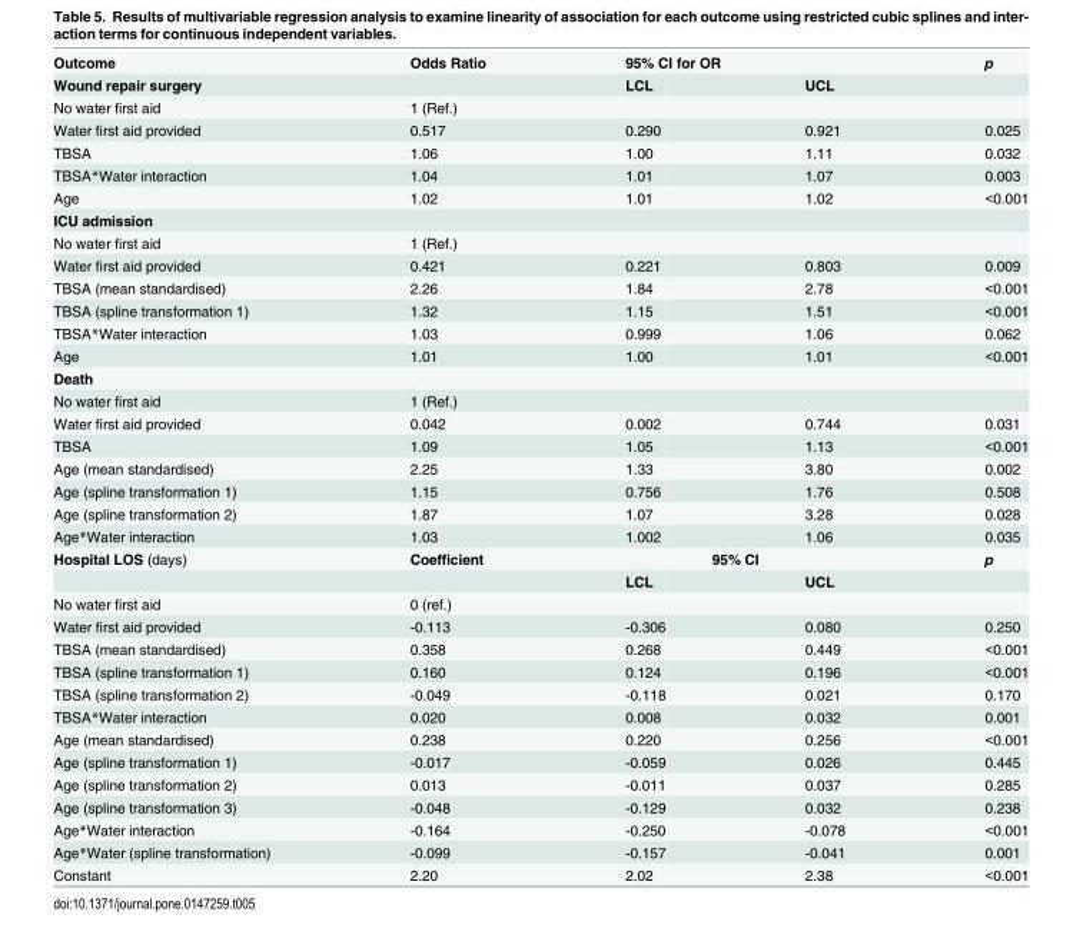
<table><tbody><tr><td>Outcome</td><td>Odds Ratio</td><td colspan="2">95% CI for OR</td><td>p</td></tr><tr><td>Wound repair surgery</td><td></td><td>LCL</td><td>UCL</td><td></td></tr><tr><td>No water first aid</td><td colspan="4">1 (Ref.)</td></tr><tr><td>Water first aid provided</td><td>0.517</td><td>0.290</td><td>0.921</td><td>0.025</td></tr><tr><td>TBSA</td><td>1.06</td><td>1.00</td><td>1.11</td><td>0.032</td></tr><tr><td>TBSA*Water interaction</td><td>1.04</td><td>1.01</td><td>1.07</td><td>0.003</td></tr><tr><td>Age</td><td>1.02</td><td>1.01</td><td>1.02</td><td>&lt;0.001</td></tr><tr><td colspan="5">ICU admission</td></tr><tr><td>No water first aid</td><td colspan="4">1 (Ref.)</td></tr><tr><td>Water first aid provided</td><td>0.421</td><td>0.221</td><td>0.803</td><td>0.009</td></tr><tr><td>TBSA (mean standardised)</td><td>2.26</td><td>1.84</td><td>2.78</td><td>&lt;0.001</td></tr><tr><td>TBSA (spline transformation 1)</td><td>1.32</td><td>1.15</td><td>1.51</td><td>&lt;0.001</td></tr><tr><td>TBSA*Water interaction</td><td>1.03</td><td>0.999</td><td>1.06</td><td>0.062</td></tr><tr><td>Age</td><td>1.01</td><td>1.00</td><td>1.01</td><td>&lt;0.001</td></tr><tr><td colspan="5">Death</td></tr><tr><td>No water first aid</td><td colspan="4">1 (Ref.)</td></tr><tr><td>Water first aid provided</td><td>0.042</td><td>0.002</td><td>0.744</td><td>0.031</td></tr><tr><td>TBSA</td><td>1.09</td><td>1.05</td><td>1.13</td><td>&lt;0.001</td></tr><tr><td>Age (mean standardised)</td><td>2.25</td><td>1.33</td><td>3.80</td><td>0.002</td></tr><tr><td>Age (spline transformation 1)</td><td>1.15</td><td>0.756</td><td>1.76</td><td>0.508</td></tr><tr><td>Age (spline transformation 2)</td><td>1.87</td><td>1.07</td><td>3.28</td><td>0.028</td></tr><tr><td>Age*Water interaction</td><td>1.03</td><td>1.002</td><td>1.06</td><td>0.035</td></tr><tr><td rowspan="2">Hospital LOS (days)</td><td>Coefficient</td><td colspan="2">95% CI</td><td>p</td></tr><tr><td></td><td>LCL</td><td>UCL</td><td></td></tr><tr><td>No water first aid</td><td colspan="4">0 (ref.)</td></tr><tr><td>Water first aid provided</td><td>-0.113</td><td>-0.306</td><td>0.080</td><td>0.250</td></tr><tr><td>TBSA (mean standardised)</td><td>0.358</td><td>0.268</td><td>0.449</td><td>&lt;0.001</td></tr><tr><td>TBSA (spline transformation 1)</td><td>0.160</td><td>0.124</td><td>0.196</td><td>&lt;0.001</td></tr><tr><td>TBSA (spline transformation 2)</td><td>-0.049</td><td>-0.118</td><td>0.021</td><td>0.170</td></tr><tr><td>TBSA*Water interaction</td><td>0.020</td><td>0.008</td><td>0.032</td><td>0.001</td></tr><tr><td>Age (mean standardised)</td><td>0.238</td><td>0.220</td><td>0.256</td><td>&lt;0.001</td></tr><tr><td>Age (spline transformation 1)</td><td>-0.017</td><td>-0.059</td><td>0.026</td><td>0.445</td></tr><tr><td>Age (spline transformation 2)</td><td>0.013</td><td>-0.011</td><td>0.037</td><td>0.285</td></tr><tr><td>Age (spline transformation 3)</td><td>-0.048</td><td>-0.129</td><td>0.032</td><td>0.238</td></tr><tr><td>Age*Water interaction</td><td>-0.164</td><td>-0.250</td><td>-0.078</td><td>&lt;0.001</td></tr><tr><td>Age*Water (spline transformation)</td><td>-0.099</td><td>-0.157</td><td>-0.041</td><td>0.001</td></tr><tr><td>Constant</td><td>2.20</td><td>2.02</td><td>2.38</td><td>&lt;0.001</td></tr></tbody></table>